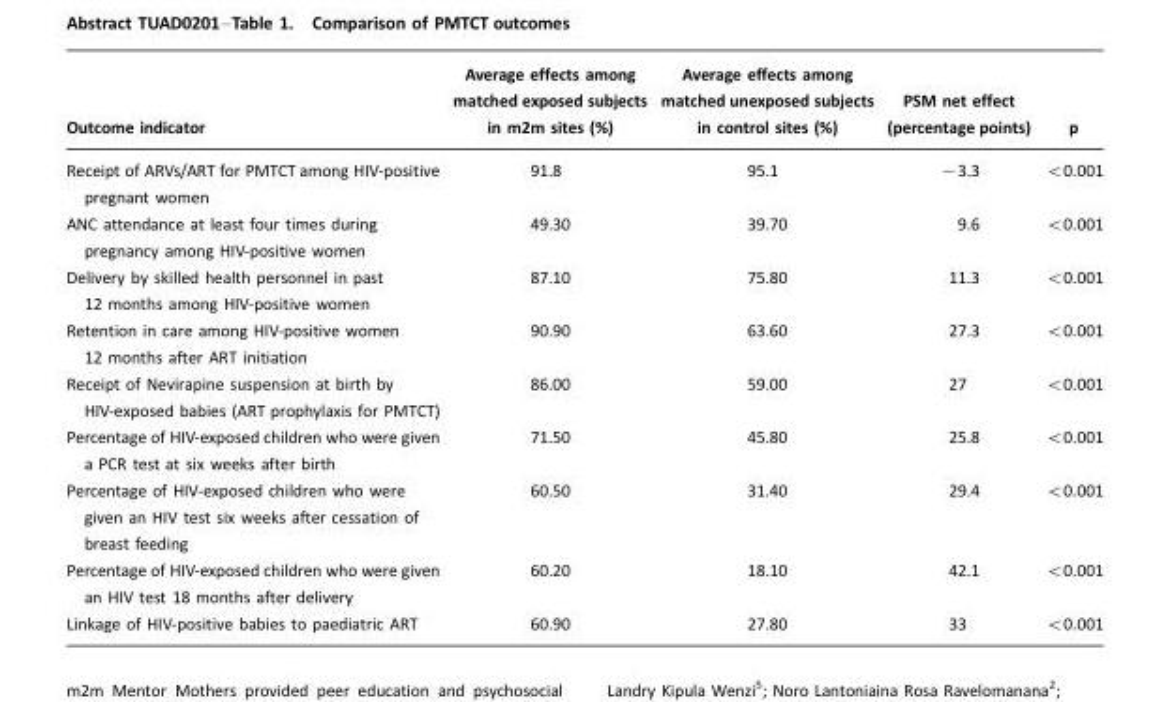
<table><thead><tr><td>Outcome indicator</td><td>Average effects among matched exposed subjects in m2m sites (%)</td><td>Average effects among matched unexposed subjects in control sites (%)</td><td>PSM net effect (percentage points)</td><td>p</td></tr></thead><tbody><tr><td>Receipt of ARVs/ART for PMTCT among HIV-positive pregnant women</td><td>91.8</td><td>95.1</td><td>−3.3</td><td>&lt;0.001</td></tr><tr><td>ANC attendance at least four times during pregnancy among HIV-positive women</td><td>49.30</td><td>39.70</td><td>9.6</td><td>&lt;0.001</td></tr><tr><td>Delivery by skilled health personnel in past 12 months among HIV-positive women</td><td>87.10</td><td>75.80</td><td>11.3</td><td>&lt;0.001</td></tr><tr><td>Retention in care among HIV-positive women 12 months after ART initiation</td><td>90.90</td><td>63.60</td><td>27.3</td><td>&lt;0.001</td></tr><tr><td>Receipt of Nevirapine suspension at birth by HIV-exposed babies (ART prophylaxis for PMTCT)</td><td>86.00</td><td>59.00</td><td>27</td><td>&lt;0.001</td></tr><tr><td>Percentage of HIV-exposed children who were given a PCR test at six weeks after birth</td><td>71.50</td><td>45.80</td><td>25.8</td><td>&lt;0.001</td></tr><tr><td>Percentage of HIV-exposed children who were given an HIV test six weeks after cessation of breast feeding</td><td>60.50</td><td>31.40</td><td>29.4</td><td>&lt;0.001</td></tr><tr><td>Percentage of HIV-exposed children who were given an HIV test 18 months after delivery</td><td>60.20</td><td>18.10</td><td>42.1</td><td>&lt;0.001</td></tr><tr><td>Linkage of HIV-positive babies to paediatric ART</td><td>60.90</td><td>27.80</td><td>33</td><td>&lt;0.001</td></tr></tbody></table>